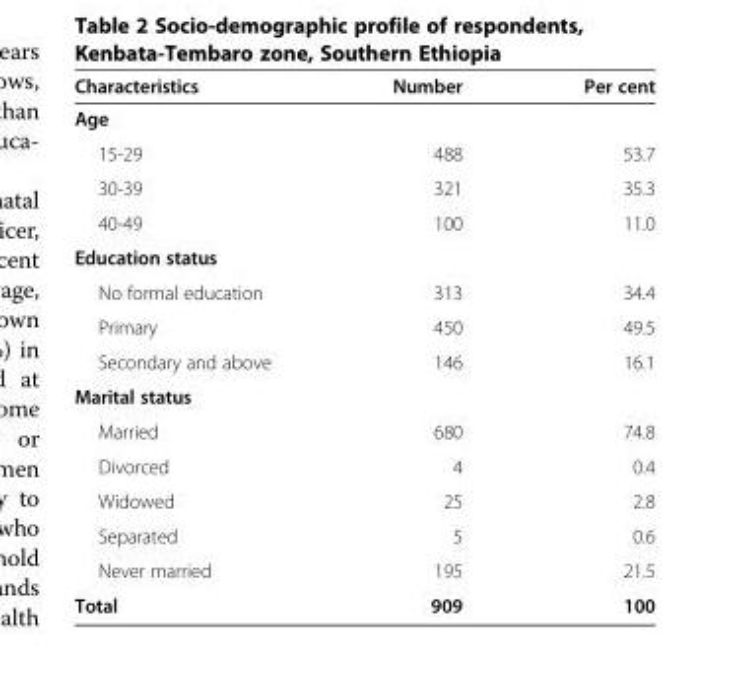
<table><thead><tr><td>Characteristics</td><td>Number</td><td>Per cent</td></tr></thead><tbody><tr><td colspan="3">Age</td></tr><tr><td>15-29</td><td>488</td><td>53.7</td></tr><tr><td>30-39</td><td>321</td><td>35.3</td></tr><tr><td>40-49</td><td>100</td><td>11.0</td></tr><tr><td colspan="3">Education status</td></tr><tr><td>No formal education</td><td>313</td><td>34.4</td></tr><tr><td>Primary</td><td>450</td><td>49.5</td></tr><tr><td>Secondary and above</td><td>146</td><td>16.1</td></tr><tr><td colspan="3">Marital status</td></tr><tr><td>Married</td><td>680</td><td>74.8</td></tr><tr><td>Divorced</td><td>4</td><td>0.4</td></tr><tr><td>Widowed</td><td>25</td><td>2.8</td></tr><tr><td>Separated</td><td>5</td><td>0.6</td></tr><tr><td>Never married</td><td>195</td><td>21.5</td></tr><tr><td>Total</td><td>909</td><td>100</td></tr></tbody></table>